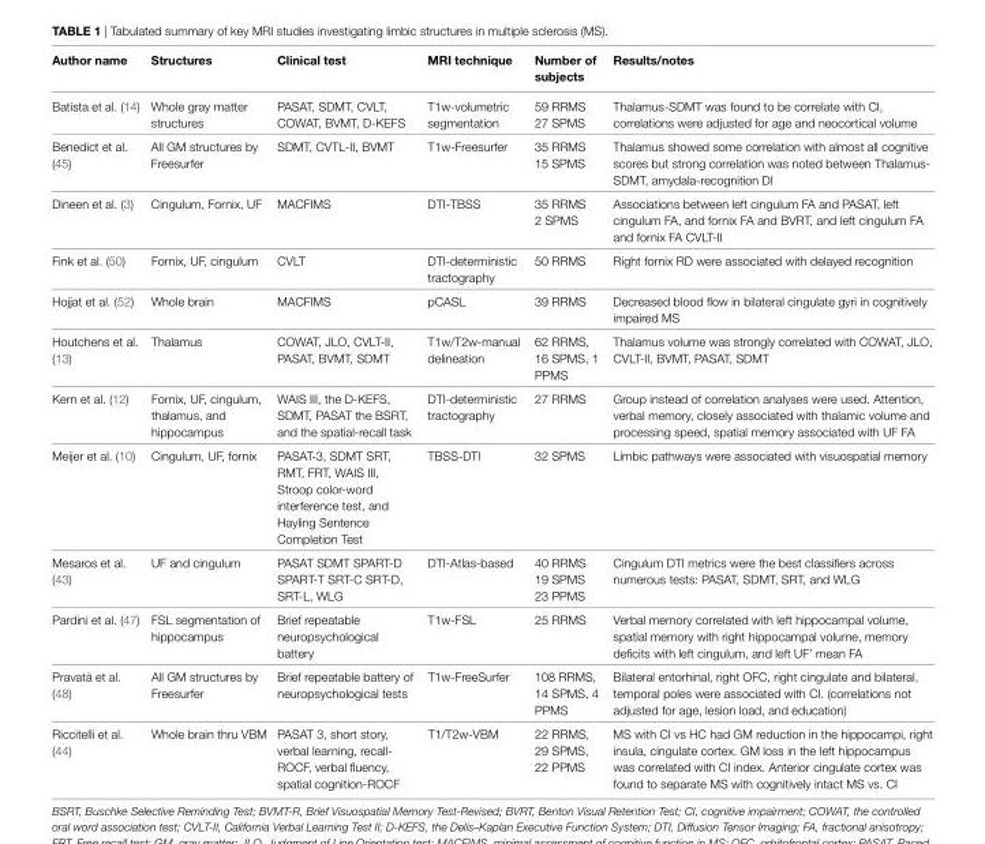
<table><thead><tr><td>author name</td><td>structures</td><td>clinical test</td><td>Mri technique</td><td>number of subjects</td><td>results/notes</td></tr></thead><tbody><tr><td>Batista et al. (14)</td><td>Whole gray matter structures</td><td>PASAT, SDMT, CVLT, COWAT, BVMT, D-KEFS</td><td>T1w-volumetric segmentation</td><td>59 RRMS 27 SPMS</td><td>Thalamus-SDMT was found to be correlate with CI, correlations were adjusted for age and neocortical volume</td></tr><tr><td>Benedict et al. (45)</td><td>All GM structures by Freesurfer</td><td>SDMT, CVTL-II, BVMT</td><td>T1w-Freesurfer</td><td>35 RRMS 15 SPMS</td><td>Thalamus showed some correlation with almost all cognitive scores but strong correlation was noted between Thalamus- SDMT, amydala-recognition DI</td></tr><tr><td>Dineen et al. (3)</td><td>Cingulum, Fornix, UF</td><td>MACFIMS</td><td>DTI-TBSS</td><td>35 RRMS 2 SPMS</td><td>Associations between left cingulum FA and PASAT, left cingulum FA, and fornix FA and BVRT, and left cingulum FA and fornix FA CVLT-II</td></tr><tr><td>Fink et al. (50)</td><td>Fornix, UF, cingulum</td><td>CVLT</td><td>DTI-deterministic tractography</td><td>50 RRMS</td><td>Right fornix RD were associated with delayed recognition</td></tr><tr><td>Hojjat et al. (52)</td><td>Whole brain</td><td>MACFIMS</td><td>pCASL</td><td>39 RRMS</td><td>Decreased blood flow in bilateral cingulate gyri in cognitively impaired MS</td></tr><tr><td>Houtchens et al. (13)</td><td>Thalamus</td><td>COWAT, JLO, CVLT-II, PASAT, BVMT, SDMT</td><td>T1w/T2w-manual delineation</td><td>62 RRMS, 16 SPMS, 1 PPMS</td><td>Thalamus volume was strongly correlated with COWAT, JLO, CVLT-II, BVMT, PASAT, SDMT</td></tr><tr><td>Kern et al. (12)</td><td>Fornix, UF, cingulum, thalamus, and hippocampus</td><td>WAIS III, the D-KEFS, SDMT, PASAT the BSRT, and the spatial-recall task</td><td>DTI-deterministic tractography</td><td>27 RRMS</td><td>Group instead of correlation analyses were used. Attention, verbal memory, closely associated with thalamic volume and processing speed, spatial memory associated with UF FA</td></tr><tr><td>Meijer et al. (10)</td><td>Cingulum, UF, fornix</td><td>PASAT-3, SDMT SRT, RMT, FRT, WAIS III, Stroop color-word interference test, and Hayling Sentence Completion Test</td><td>TBSS-DTI</td><td>32 SPMS</td><td>Limbic pathways were associated with visuospatial memory</td></tr><tr><td>Mesaros et al. (43)</td><td>UF and cingulum</td><td>PASAT SDMT SPART-D SPART-T SRT-C SRT-D, SRT-L, WLG</td><td>DTI-Atlas-based</td><td>40 RRMS 19 SPMS 23 PPMS</td><td>Cingulum DTI metrics were the best classifiers across numerous tests: PASAT, SDMT, SRT, and WLG</td></tr><tr><td>Pardini et al. (47)</td><td>FSL segmentation of hippocampus</td><td>Brief repeatable neuropsychological battery</td><td>T1w-FSL</td><td>25 RRMS</td><td>Verbal memory correlated with left hippocampal volume, spatial memory with right hippocampal volume, memory deficits with left cingulum, and left UF’ mean FA</td></tr><tr><td>Pravatà et al. (48)</td><td>All GM structures by Freesurfer</td><td>Brief repeatable battery of neuropsychological tests</td><td>T1w-FreeSurfer</td><td>108 RRMS, 14 SPMS, 4 PPMS</td><td>Bilateral entorhinal, right OFC, right cingulate and bilateral, temporal poles were associated with CI. (correlations not adjusted for age, lesion load, and education)</td></tr><tr><td>Riccitelli et al. (44)</td><td>Whole brain thru VBM</td><td>PASAT 3, short story, verbal learning, recall- ROCF, verbal fluency, spatial cognition-ROCF</td><td>T1/T2w-VBM</td><td>22 RRMS, 29 SPMS, 22 PPMS</td><td>MS with CI vs HC had GM reduction in the hippocampi, right insula, cingulate cortex. GM loss in the left hippocampus was correlated with CI index. Anterior cingulate cortex was found to separate MS with cognitively intact MS vs. CI</td></tr></tbody></table>